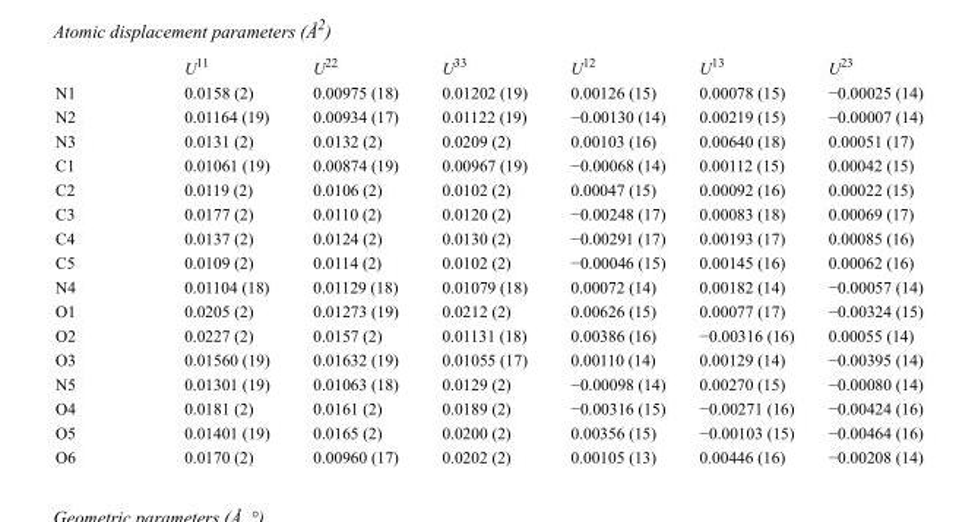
<table><thead><tr><td></td><td>U<sup>11</sup></td><td>U<sup>22</sup></td><td>U<sup>33</sup></td><td>U<sup>12</sup></td><td>U<sup>13</sup></td><td>U<sup>23</sup></td></tr></thead><tbody><tr><td>N1</td><td>0.0158 (2)</td><td>0.00975 (18)</td><td>0.01202 (19)</td><td>0.00126 (15)</td><td>0.00078 (15)</td><td>−0.00025 (14)</td></tr><tr><td>N2</td><td>0.01164 (19)</td><td>0.00934 (17)</td><td>0.01122 (19)</td><td>−0.00130 (14)</td><td>0.00219 (15)</td><td>−0.00007 (14)</td></tr><tr><td>N3</td><td>0.0131 (2)</td><td>0.0132 (2)</td><td>0.0209 (2)</td><td>0.00103 (16)</td><td>0.00640 (18)</td><td>0.00051 (17)</td></tr><tr><td>C1</td><td>0.01061 (19)</td><td>0.00874 (19)</td><td>0.00967 (19)</td><td>−0.00068 (14)</td><td>0.00112 (15)</td><td>0.00042 (15)</td></tr><tr><td>C2</td><td>0.0119 (2)</td><td>0.0106 (2)</td><td>0.0102 (2)</td><td>0.00047 (15)</td><td>0.00092 (16)</td><td>0.00022 (15)</td></tr><tr><td>C3</td><td>0.0177 (2)</td><td>0.0110 (2)</td><td>0.0120 (2)</td><td>−0.00248 (17)</td><td>0.00083 (18)</td><td>0.00069 (17)</td></tr><tr><td>C4</td><td>0.0137 (2)</td><td>0.0124 (2)</td><td>0.0130 (2)</td><td>−0.00291 (17)</td><td>0.00193 (17)</td><td>0.00085 (16)</td></tr><tr><td>C5</td><td>0.0109 (2)</td><td>0.0114 (2)</td><td>0.0102 (2)</td><td>−0.00046 (15)</td><td>0.00145 (16)</td><td>0.00062 (16)</td></tr><tr><td>N4</td><td>0.01104 (18)</td><td>0.01129 (18)</td><td>0.01079 (18)</td><td>0.00072 (14)</td><td>0.00182 (14)</td><td>−0.00057 (14)</td></tr><tr><td>O1</td><td>0.0205 (2)</td><td>0.01273 (19)</td><td>0.0212 (2)</td><td>0.00626 (15)</td><td>0.00077 (17)</td><td>−0.00324 (15)</td></tr><tr><td>O2</td><td>0.0227 (2)</td><td>0.0157 (2)</td><td>0.01131 (18)</td><td>0.00386 (16)</td><td>−0.00316 (16)</td><td>0.00055 (14)</td></tr><tr><td>O3</td><td>0.01560 (19)</td><td>0.01632 (19)</td><td>0.01055 (17)</td><td>0.00110 (14)</td><td>0.00129 (14)</td><td>−0.00395 (14)</td></tr><tr><td>N5</td><td>0.01301 (19)</td><td>0.01063 (18)</td><td>0.0129 (2)</td><td>−0.00098 (14)</td><td>0.00270 (15)</td><td>−0.00080 (14)</td></tr><tr><td>O4</td><td>0.0181 (2)</td><td>0.0161 (2)</td><td>0.0189 (2)</td><td>−0.00316 (15)</td><td>−0.00271 (16)</td><td>−0.00424 (16)</td></tr><tr><td>O5</td><td>0.01401 (19)</td><td>0.0165 (2)</td><td>0.0200 (2)</td><td>0.00356 (15)</td><td>−0.00103 (15)</td><td>−0.00464 (16)</td></tr><tr><td>O6</td><td>0.0170 (2)</td><td>0.00960 (17)</td><td>0.0202 (2)</td><td>0.00105 (13)</td><td>0.00446 (16)</td><td>−0.00208 (14)</td></tr></tbody></table>